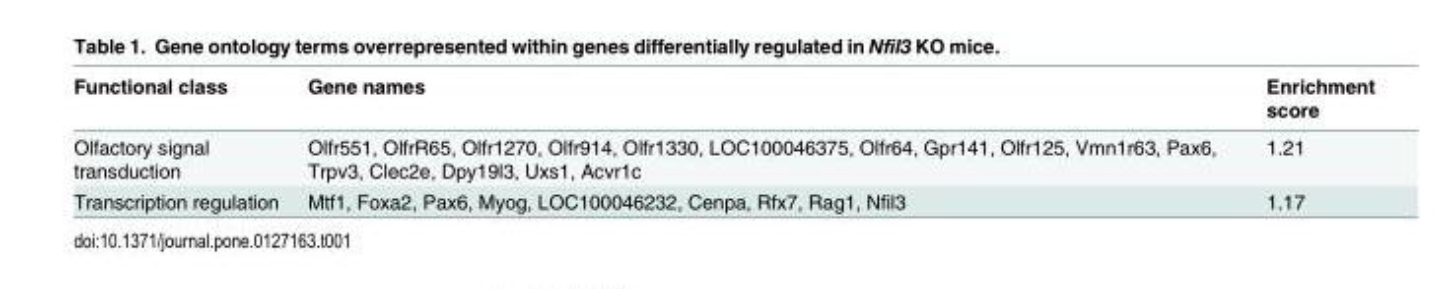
<table><thead><tr><td>Functional class</td><td>Gene names</td><td>Enrichment score</td></tr></thead><tbody><tr><td>Olfactory signal transduction</td><td>Olfr551, OlfrR65, Olfr1270, Olfr914, Olfr1330, LOC100046375, Olfr64, Gpr141, Olfr125, Vmn1r63, Pax6, Trpv3, Clec2e, Dpy19l3, Uxs1, Acvr1c</td><td>1.21</td></tr><tr><td>Transcription regulation</td><td>Mtf1, Foxa2, Pax6, Myog, LOC100046232, Cenpa, Rfx7, Rag1, Nfil3</td><td>1.17</td></tr></tbody></table>